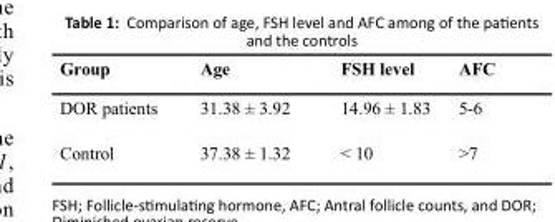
<table><thead><tr><td>Group</td><td>Age</td><td>FSH level</td><td>AFC</td></tr></thead><tbody><tr><td>DOR patients</td><td>31.38 ± 3.92</td><td>14.96 ± 1.83</td><td>5-6</td></tr><tr><td>Control</td><td>37.38 ± 1.32</td><td>&lt; 10</td><td>&gt;7</td></tr></tbody></table>